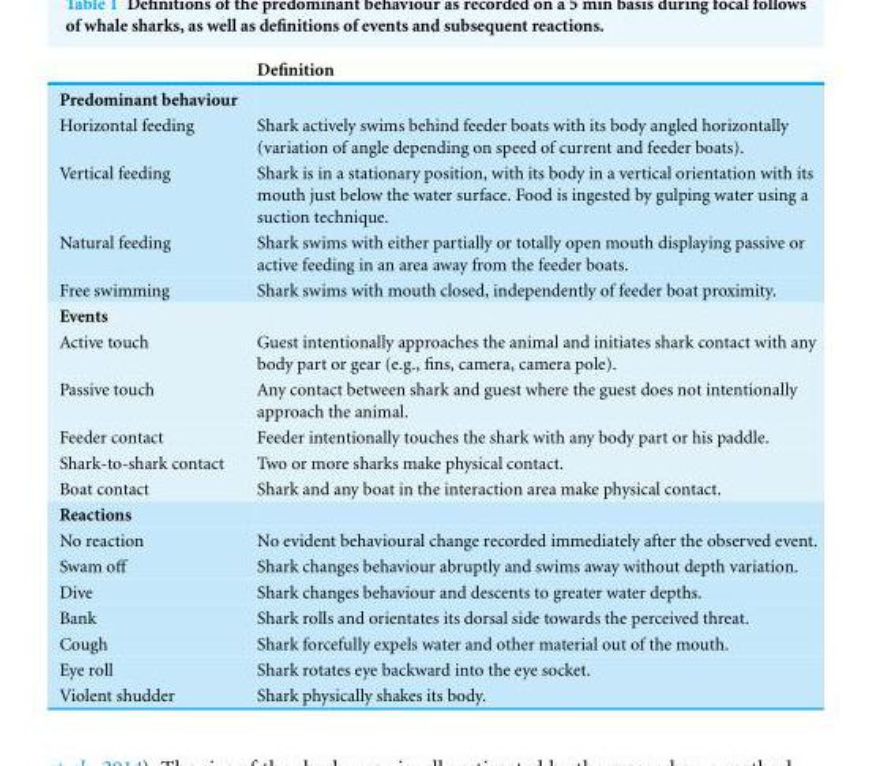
<table><thead><tr><td></td><td>Definition</td></tr></thead><tbody><tr><td colspan="2">Predominant behaviour</td></tr><tr><td>Horizontal feeding</td><td>Shark actively swims behind feeder boats with its body angled horizontally (variation of angle depending on speed of current and feeder boats).</td></tr><tr><td>Vertical feeding</td><td>Shark is in a stationary position, with its body in a vertical orientation with its mouth just below the water surface. Food is ingested by gulping water using a suction technique.</td></tr><tr><td>Natural feeding</td><td>Shark swims with either partially or totally open mouth displaying passive or active feeding in an area away from the feeder boats.</td></tr><tr><td>Free swimming</td><td>Shark swims with mouth closed, independently of feeder boat proximity.</td></tr><tr><td colspan="2">Events</td></tr><tr><td>Active touch</td><td>Guest intentionally approaches the animal and initiates shark contact with any body part or gear (e.g., fins, camera, camera pole).</td></tr><tr><td>Passive touch</td><td>Any contact between shark and guest where the guest does not intentionally approach the animal.</td></tr><tr><td>Feeder contact</td><td>Feeder intentionally touches the shark with any body part or his paddle.</td></tr><tr><td>Shark-to-shark contact</td><td>Two or more sharks make physical contact.</td></tr><tr><td>Boat contact</td><td>Shark and any boat in the interaction area make physical contact.</td></tr><tr><td colspan="2">Reactions</td></tr><tr><td>No reaction</td><td>No evident behavioural change recorded immediately after the observed event.</td></tr><tr><td>Swam off</td><td>Shark changes behaviour abruptly and swims away without depth variation.</td></tr><tr><td>Dive</td><td>Shark changes behaviour and descents to greater water depths.</td></tr><tr><td>Bank</td><td>Shark rolls and orientates its dorsal side towards the perceived threat.</td></tr><tr><td>Cough</td><td>Shark forcefully expels water and other material out of the mouth.</td></tr><tr><td>Eye roll</td><td>Shark rotates eye backward into the eye socket.</td></tr><tr><td>Violent shudder</td><td>Shark physically shakes its body.</td></tr></tbody></table>